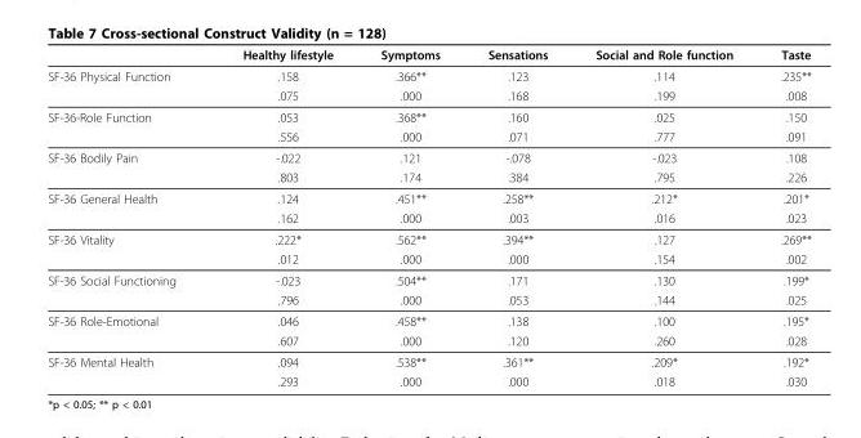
<table><thead><tr><td></td><td>Healthy lifestyle</td><td>Symptoms</td><td>Sensations</td><td>Social and Role function</td><td>Taste</td></tr></thead><tbody><tr><td rowspan="2">SF-36 Physical Function</td><td>.158</td><td>.366**</td><td>.123</td><td>.114</td><td>.235**</td></tr><tr><td>.075</td><td>.000</td><td>.168</td><td>.199</td><td>.008</td></tr><tr><td rowspan="2">SF-36-Role Function</td><td>.053</td><td>.368**</td><td>.160</td><td>.025</td><td>.150</td></tr><tr><td>.556</td><td>.000</td><td>.071</td><td>.777</td><td>.091</td></tr><tr><td rowspan="2">SF-36 Bodily Pain</td><td>-.022</td><td>.121</td><td>-.078</td><td>-.023</td><td>.108</td></tr><tr><td>.803</td><td>.174</td><td>.384</td><td>.795</td><td>.226</td></tr><tr><td rowspan="2">SF-36 General Health</td><td>.124</td><td>.451**</td><td>.258**</td><td>.212*</td><td>.201*</td></tr><tr><td>.162</td><td>.000</td><td>.003</td><td>.016</td><td>.023</td></tr><tr><td rowspan="2">SF-36 Vitality</td><td>.222*</td><td>.562**</td><td>.394**</td><td>.127</td><td>.269**</td></tr><tr><td>.012</td><td>.000</td><td>.000</td><td>.154</td><td>.002</td></tr><tr><td rowspan="2">SF-36 Social Functioning</td><td>-.023</td><td>.504**</td><td>.171</td><td>.130</td><td>.199*</td></tr><tr><td>.796</td><td>.000</td><td>.053</td><td>.144</td><td>.025</td></tr><tr><td rowspan="2">SF-36 Role-Emotional</td><td>.046</td><td>.458**</td><td>.138</td><td>.100</td><td>.195*</td></tr><tr><td>.607</td><td>.000</td><td>.120</td><td>.260</td><td>.028</td></tr><tr><td rowspan="2">SF-36 Mental Health</td><td>.094</td><td>.538**</td><td>.361**</td><td>.209*</td><td>.192*</td></tr><tr><td>.293</td><td>.000</td><td>.000</td><td>.018</td><td>.030</td></tr></tbody></table>